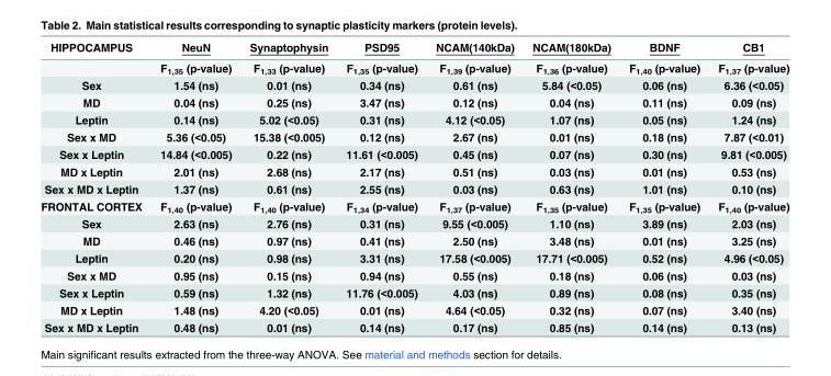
<table><thead><tr><td>HIPPOCAMPUS</td><td>NeuN</td><td>Synaptophysin</td><td>PSD95</td><td>NCAM(140kDa)</td><td>NCAM(180kDa)</td><td>BDNF</td><td>CB1</td></tr></thead><tbody><tr><td></td><td>F<sub>1,35</sub> (p-value)</td><td>F<sub>1,33</sub> (p-value)</td><td>F<sub>1,35</sub> (p-value)</td><td>F<sub>1,39</sub> (p-value)</td><td>F<sub>1,36</sub> (p-value)</td><td>F<sub>1,40</sub> (p-value)</td><td>F<sub>1,37</sub> (p-value)</td></tr><tr><td>Sex</td><td>1.54 (ns)</td><td>0.01 (ns)</td><td>0.34 (ns)</td><td>0.61 (ns)</td><td>5.84 (&lt;0.05)</td><td>0.06 (ns)</td><td>6.36 (&lt;0.05)</td></tr><tr><td>MD</td><td>0.04 (ns)</td><td>0.25 (ns)</td><td>3.47 (ns)</td><td>0.12 (ns)</td><td>0.04 (ns)</td><td>0.11 (ns)</td><td>0.09 (ns)</td></tr><tr><td>Leptin</td><td>0.14 (ns)</td><td>5.02 (&lt;0.05)</td><td>0.31 (ns)</td><td>4.12 (&lt;0.05)</td><td>1.07 (ns)</td><td>0.05 (ns)</td><td>1.24 (ns)</td></tr><tr><td>Sex x MD</td><td>5.36 (&lt;0.05)</td><td>15.38 (&lt;0.005)</td><td>0.12 (ns)</td><td>2.67 (ns)</td><td>0.01 (ns)</td><td>0.18 (ns)</td><td>7.87 (&lt;0.01)</td></tr><tr><td>Sex x Leptin</td><td>14.84 (&lt;0.005)</td><td>0.22 (ns)</td><td>11.61 (&lt;0.005)</td><td>0.45 (ns)</td><td>0.07 (ns)</td><td>0.30 (ns)</td><td>9.81 (&lt;0.005)</td></tr><tr><td>MD x Leptin</td><td>2.01 (ns)</td><td>2.68 (ns)</td><td>2.17 (ns)</td><td>0.51 (ns)</td><td>0.03 (ns)</td><td>0.01 (ns)</td><td>0.53 (ns)</td></tr><tr><td>Sex x MD x Leptin</td><td>1.37 (ns)</td><td>0.61 (ns)</td><td>2.55 (ns)</td><td>0.03 (ns)</td><td>0.63 (ns)</td><td>1.01 (ns)</td><td>0.10 (ns)</td></tr><tr><td>FRONTAL CORTEX</td><td>F<sub>1,40</sub> (p-value)</td><td>F<sub>1,40</sub> (p-value)</td><td>F<sub>1,34</sub> (p-value)</td><td>F<sub>1,37</sub> (p-value)</td><td>F<sub>1,35</sub> (p-value)</td><td>F<sub>1,35</sub> (p-value)</td><td>F<sub>1,40</sub> (p-value)</td></tr><tr><td>Sex</td><td>2.63 (ns)</td><td>2.76 (ns)</td><td>0.31 (ns)</td><td>9.55 (&lt;0.005)</td><td>1.10 (ns)</td><td>3.89 (ns)</td><td>2.03 (ns)</td></tr><tr><td>MD</td><td>0.46 (ns)</td><td>0.97 (ns)</td><td>0.41 (ns)</td><td>2.50 (ns)</td><td>3.48 (ns)</td><td>0.01 (ns)</td><td>3.25 (ns)</td></tr><tr><td>Leptin</td><td>0.20 (ns)</td><td>0.98 (ns)</td><td>3.31 (ns)</td><td>17.58 (&lt;0.005)</td><td>17.71 (&lt;0.005)</td><td>0.52 (ns)</td><td>4.96 (&lt;0.05)</td></tr><tr><td>Sex x MD</td><td>0.95 (ns)</td><td>0.15 (ns)</td><td>0.94 (ns)</td><td>0.55 (ns)</td><td>0.18 (ns)</td><td>0.06 (ns)</td><td>0.03 (ns)</td></tr><tr><td>Sex x Leptin</td><td>0.59 (ns)</td><td>1.32 (ns)</td><td>11.76 (&lt;0.005)</td><td>4.03 (ns)</td><td>0.89 (ns)</td><td>0.08 (ns)</td><td>0.35 (ns)</td></tr><tr><td>MD x Leptin</td><td>1.48 (ns)</td><td>4.20 (&lt;0.05)</td><td>0.01 (ns)</td><td>4.64 (&lt;0.05)</td><td>0.32 (ns)</td><td>0.07 (ns)</td><td>3.40 (ns)</td></tr><tr><td>Sex x MD x Leptin</td><td>0.48 (ns)</td><td>0.01 (ns)</td><td>0.14 (ns)</td><td>0.17 (ns)</td><td>0.85 (ns)</td><td>0.14 (ns)</td><td>0.13 (ns)</td></tr></tbody></table>